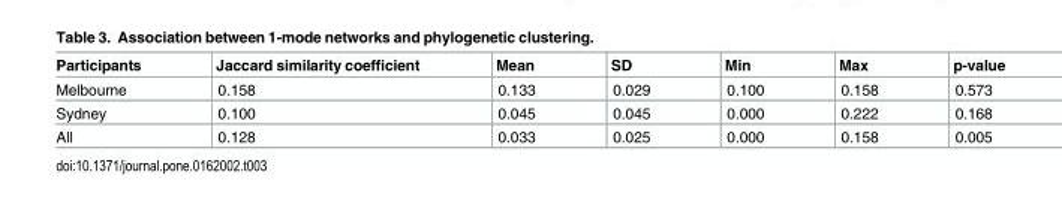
<table><thead><tr><td>Participants</td><td>Jaccard similarity coefficient</td><td>Mean</td><td>SD</td><td>Min</td><td>Max</td><td>p-value</td></tr></thead><tbody><tr><td>Melbourne</td><td>0.158</td><td>0.133</td><td>0.029</td><td>0.100</td><td>0.158</td><td>0.573</td></tr><tr><td>Sydney</td><td>0.100</td><td>0.045</td><td>0.045</td><td>0.000</td><td>0.222</td><td>0.168</td></tr><tr><td>All</td><td>0.128</td><td>0.033</td><td>0.025</td><td>0.000</td><td>0.158</td><td>0.005</td></tr></tbody></table>